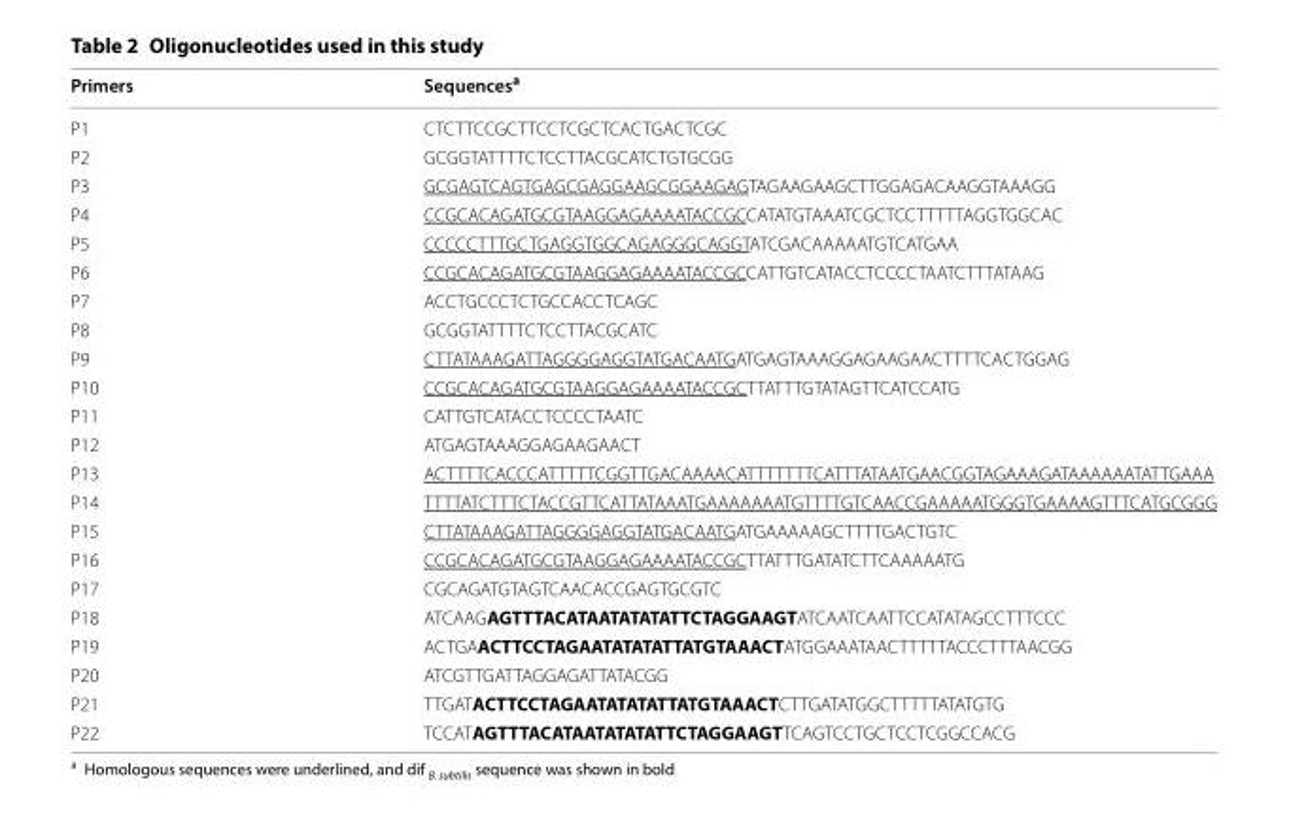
<table><thead><tr><td>Primers</td><td>Sequences<sup>a</sup></td></tr></thead><tbody><tr><td>P1</td><td>CTCTTCCGCTTCCTCGCTCACTGACTCGC</td></tr><tr><td>P2</td><td>GCGGTATTTTCTCCTTACGCATCTGTGCGG</td></tr><tr><td>P3</td><td>GCGAGTCAGTGAGCGAGGAAGCGGAAGAGTAGAAGAAGCTTGGAGACAAGGTAAAGG</td></tr><tr><td>P4</td><td>CCGCACAGATGCGTAAGGAGAAAATACCGCCATATGTAAATCGCTCCTTTTTAGGTGGCAC</td></tr><tr><td>P5</td><td>CCCCCTTTGCTGAGGTGGCAGAGGGCAGGTATCGACAAAAATGTCATGAA</td></tr><tr><td>P6</td><td>CCGCACAGATGCGTAAGGAGAAAATACCGCCATTGTCATACCTCCCCTAATCTTTATAAG</td></tr><tr><td>P7</td><td>ACCTGCCCTCTGCCACCTCAGC</td></tr><tr><td>P8</td><td>GCGGTATTTTCTCCTTACGCATC</td></tr><tr><td>P9</td><td>CTTATAAAGATTAGGGGAGGTATGACAATGATGAGTAAAGGAGAAGAACTTTTCACTGGAG</td></tr><tr><td>P10</td><td>CCGCACAGATGCGTAAGGAGAAAATACCGCTTATTTGTATAGTTCATCCATG</td></tr><tr><td>P11</td><td>CATTGTCATACCTCCCCTAATC</td></tr><tr><td>P12</td><td>ATGAGTAAAGGAGAAGAACT</td></tr><tr><td>P13</td><td>ACTTTTCACCCATTTTTCGGTTGACAAAACATTTTTTTCATTTATAATGAACGGTAGAAAGATAAAAAATATTGAAA</td></tr><tr><td>P14</td><td>TTTTATCTTTCTACCGTTCATTATAAATGAAAAAAATGTTTTGTCAACCGAAAAATGGGTGAAAAGTTTCATGCGGG</td></tr><tr><td>P15</td><td>CTTATAAAGATTAGGGGAGGTATGACAATGATGAAAAAGCTTTTGACTGTC</td></tr><tr><td>P16</td><td>CCGCACAGATGCGTAAGGAGAAAATACCGCTTATTTGATATCTTCAAAAATG</td></tr><tr><td>P17</td><td>CGCAGATGTAGTCAACACCGAGTGCGTC</td></tr><tr><td>P18</td><td>ATCAAGAGTTTACATAATATATATTCTAGGAAGTATCAATCAATTCCATATAGCCTTTCCC</td></tr><tr><td>P19</td><td>ACTGAACTTCCTAGAATATATATTATGTAAACTATGGAAATAACTTTTTACCCTTTAACGG</td></tr><tr><td>P20</td><td>ATCGTTGATTAGGAGATTATACGG</td></tr><tr><td>P21</td><td>TTGATACTTCCTAGAATATATATTATGTAAACTCTTGATATGGCTTTTTATATGTG</td></tr><tr><td>P22</td><td>TCCATAGTTTACATAATATATATTCTAGGAAGTTCAGTCCTGCTCCTCGGCCACG</td></tr></tbody></table>